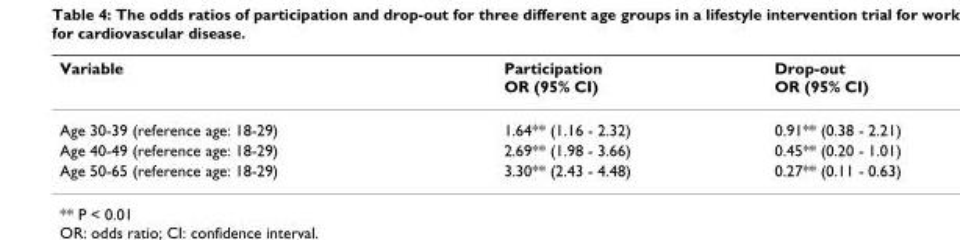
<table><thead><tr><td>Variable</td><td>Participation OR (95% CI)</td><td>Drop-out OR (95% CI)</td></tr></thead><tbody><tr><td>Age 30-39 (reference age: 18-29)</td><td>1.64** (1.16 - 2.32)</td><td>0.91** (0.38 - 2.21)</td></tr><tr><td>Age 40-49 (reference age: 18-29)</td><td>2.69** (1.98 - 3.66)</td><td>0.45** (0.20 - 1.01)</td></tr><tr><td>Age 50-65 (reference age: 18-29)</td><td>3.30** (2.43 - 4.48)</td><td>0.27** (0.11 - 0.63)</td></tr></tbody></table>